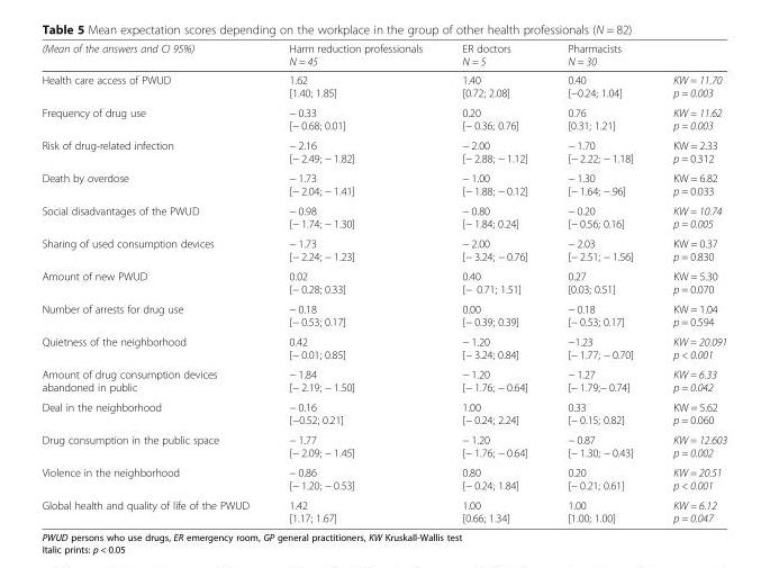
<table><thead><tr><td>(Mean of the answers and CI 95%)</td><td>Harm reduction professionals N = 45</td><td>ER doctors N = 5</td><td>Pharmacists N = 30</td><td></td></tr></thead><tbody><tr><td>Health care access of PWUD</td><td>1.62 [1.40; 1.85]</td><td>1.40 [0.72; 2.08]</td><td>0.40 [−0.24; 1.04]</td><td>KW = 11.70 p = 0.003</td></tr><tr><td>Frequency of drug use</td><td>− 0.33 [− 0.68; 0.01]</td><td>0.20 [− 0.36; 0.76]</td><td>0.76 [0.31; 1.21]</td><td>KW = 11.62 p = 0.003</td></tr><tr><td>Risk of drug-related infection</td><td>− 2.16 [− 2.49; − 1.82]</td><td>− 2.00 [− 2.88; − 1.12]</td><td>− 1.70 [− 2.22; − 1.18]</td><td>KW = 2.33 p = 0.312</td></tr><tr><td>Death by overdose</td><td>− 1.73 [− 2.04; − 1.41]</td><td>− 1.00 [− 1.88; − 0.12]</td><td>− 1.30 [− 1.64; −.96]</td><td>KW = 6.82 p = 0.033</td></tr><tr><td>Social disadvantages of the PWUD</td><td>− 0.98 [− 1.74; − 1.30]</td><td>− 0.80 [− 1.84; 0.24]</td><td>− 0.20 [− 0.56; 0.16]</td><td>KW = 10.74 p = 0.005</td></tr><tr><td>Sharing of used consumption devices</td><td>− 1.73 [− 2.24; − 1.23]</td><td>− 2.00 [− 3.24; − 0.76]</td><td>− 2.03 [− 2.51; − 1.56]</td><td>KW = 0.37 p = 0.830</td></tr><tr><td>Amount of new PWUD</td><td>0.02 [− 0.28; 0.33]</td><td>0.40 [− 0.71; 1.51]</td><td>0.27 [0.03; 0.51]</td><td>KW = 5.30 p = 0.070</td></tr><tr><td>Number of arrests for drug use</td><td>− 0.18 [− 0.53; 0.17]</td><td>0.00 [− 0.39; 0.39]</td><td>− 0.18 [− 0.53; 0.17]</td><td>KW = 1.04 p = 0.594</td></tr><tr><td>Quietness of the neighborhood</td><td>0.42 [− 0.01; 0.85]</td><td>− 1.20 [− 3.24; 0.84]</td><td>−1.23 [− 1.77; − 0.70]</td><td>KW = 20.091 p &lt; 0.001</td></tr><tr><td>Amount of drug consumption devices abandoned in public</td><td>− 1.84 [− 2.19; − 1.50]</td><td>− 1.20 [− 1.76; − 0.64]</td><td>− 1.27 [− 1.79;− 0.74]</td><td>KW = 6.33 p = 0.042</td></tr><tr><td>Deal in the neighborhood</td><td>− 0.16 [−0.52; 0.21]</td><td>1.00 [− 0.24; 2.24]</td><td>0.33 [− 0.15; 0.82]</td><td>KW = 5.62 p = 0.060</td></tr><tr><td>Drug consumption in the public space</td><td>− 1.77 [− 2.09; − 1.45]</td><td>− 1.20 [− 1.76; − 0.64]</td><td>− 0.87 [− 1.30; − 0.43]</td><td>KW = 12.603 p = 0.002</td></tr><tr><td>Violence in the neighborhood</td><td>− 0.86 [− 1.20; − 0.53]</td><td>0.80 [− 0.24; 1.84]</td><td>0.20 [− 0.21; 0.61]</td><td>KW = 20.51 p &lt; 0.001</td></tr><tr><td>Global health and quality of life of the PWUD</td><td>1.42 [1.17; 1.67]</td><td>1.00 [0.66; 1.34]</td><td>1.00 [1.00; 1.00]</td><td>KW = 6.12 p = 0.047</td></tr></tbody></table>